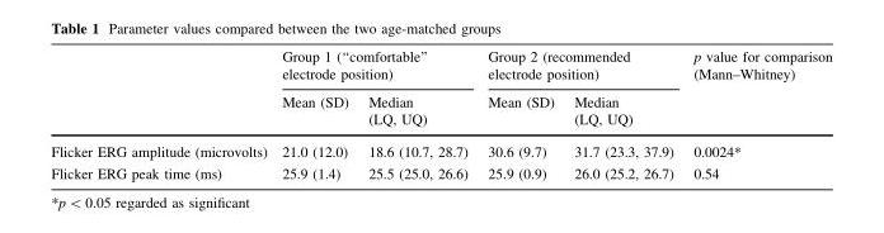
<table><thead><tr><td rowspan="2"></td><td colspan="2">Group 1 (‘‘comfortable’’ electrode position)</td><td colspan="2">Group 2 (recommended electrode position)</td><td rowspan="2">p value for comparison (Mann–Whitney)</td></tr><tr><td>Mean (SD)</td><td>Median (LQ, UQ)</td><td>Mean (SD)</td><td>Median (LQ, UQ)</td></tr></thead><tbody><tr><td>Flicker ERG amplitude (microvolts)</td><td>21.0 (12.0)</td><td>18.6 (10.7, 28.7)</td><td>30.6 (9.7)</td><td>31.7 (23.3, 37.9)</td><td>0.0024*</td></tr><tr><td>Flicker ERG peak time (ms)</td><td>25.9 (1.4)</td><td>25.5 (25.0, 26.6)</td><td>25.9 (0.9)</td><td>26.0 (25.2, 26.7)</td><td>0.54</td></tr></tbody></table>